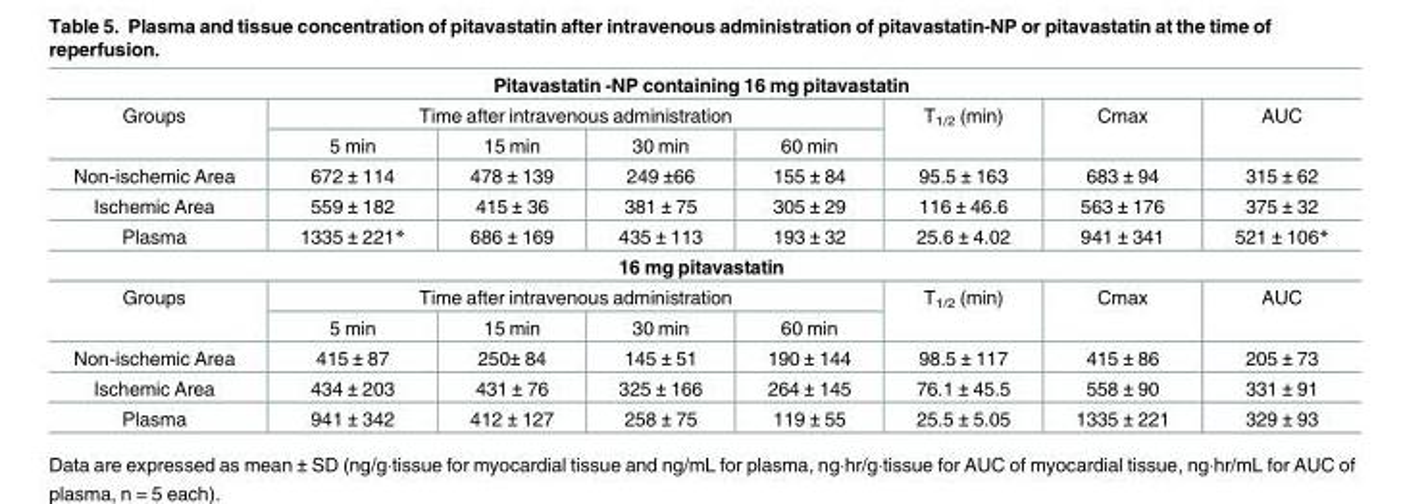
<table><tbody><tr><td colspan="8">Pitavastatin -NP containing 16 mg pitavastatin</td></tr><tr><td rowspan="2">Groups</td><td colspan="4">Time after intravenous administration</td><td rowspan="2">T<sub>1/2</sub> (min)</td><td rowspan="2">Cmax</td><td rowspan="2">AUC</td></tr><tr><td>5 min</td><td>15 min</td><td>30 min</td><td>60 min</td></tr><tr><td>Non-ischemic Area</td><td>672 ± 114</td><td>478 ± 139</td><td>249 ±66</td><td>155 ± 84</td><td>95.5 ± 163</td><td>683 ± 94</td><td>315 ± 62</td></tr><tr><td>Ischemic Area</td><td>559 ± 182</td><td>415 ± 36</td><td>381 ± 75</td><td>305 ± 29</td><td>116 ± 46.6</td><td>563 ± 176</td><td>375 ± 32</td></tr><tr><td>Plasma</td><td>1335 ± 221*</td><td>686 ± 169</td><td>435 ± 113</td><td>193 ± 32</td><td>25.6 ± 4.02</td><td>941 ± 341</td><td>521 ± 106*</td></tr><tr><td colspan="8">16 mg pitavastatin</td></tr><tr><td rowspan="2">Groups</td><td colspan="4">Time after intravenous administration</td><td rowspan="2">T<sub>1/2</sub> (min)</td><td rowspan="2">Cmax</td><td rowspan="2">AUC</td></tr><tr><td>5 min</td><td>15 min</td><td>30 min</td><td>60 min</td></tr><tr><td>Non-ischemic Area</td><td>415 ± 87</td><td>250± 84</td><td>145 ± 51</td><td>190 ± 144</td><td>98.5 ± 117</td><td>415 ± 86</td><td>205 ± 73</td></tr><tr><td>Ischemic Area</td><td>434 ± 203</td><td>431 ± 76</td><td>325 ± 166</td><td>264 ± 145</td><td>76.1 ± 45.5</td><td>558 ± 90</td><td>331 ± 91</td></tr><tr><td>Plasma</td><td>941 ± 342</td><td>412 ± 127</td><td>258 ± 75</td><td>119 ± 55</td><td>25.5 ± 5.05</td><td>1335 ± 221</td><td>329 ± 93</td></tr></tbody></table>